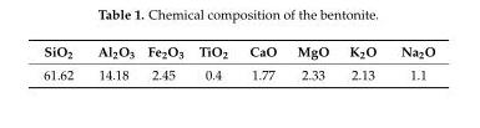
<table><thead><tr><td>SiO<sub>2</sub></td><td>Al<sub>2</sub>O<sub>3</sub></td><td>Fe<sub>2</sub>O<sub>3</sub></td><td>TiO<sub>2</sub></td><td>CaO</td><td>MgO</td><td>K<sub>2</sub>O</td><td>Na<sub>2</sub>O</td></tr></thead><tbody><tr><td>61.62</td><td>14.18</td><td>2.45</td><td>0.4</td><td>1.77</td><td>2.33</td><td>2.13</td><td>1.1</td></tr></tbody></table>